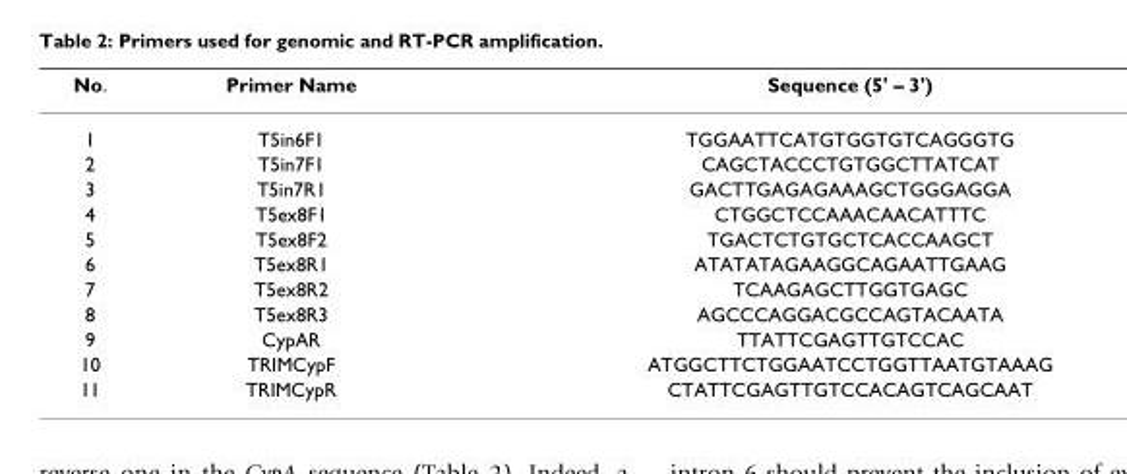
<table><thead><tr><td>No.</td><td>Primer Name</td><td>Sequence (5&#x27; – 3&#x27;)</td></tr></thead><tbody><tr><td>1</td><td>T5in6F1</td><td>TGGAATTCATGTGGTGTCAGGGTG</td></tr><tr><td>2</td><td>T5in7F1</td><td>CAGCTACCCTGTGGCTTATCAT</td></tr><tr><td>3</td><td>T5in7R1</td><td>GACTTGAGAGAAAGCTGGGAGGA</td></tr><tr><td>4</td><td>T5ex8F1</td><td>CTGGCTCCAAACAACATTTC</td></tr><tr><td>5</td><td>T5ex8F2</td><td>TGACTCTGTGCTCACCAAGCT</td></tr><tr><td>6</td><td>T5ex8R1</td><td>ATATATAGAAGGCAGAATTGAAG</td></tr><tr><td>7</td><td>T5ex8R2</td><td>TCAAGAGCTTGGTGAGC</td></tr><tr><td>8</td><td>T5ex8R3</td><td>AGCCCAGGACGCCAGTACAATA</td></tr><tr><td>9</td><td>CypAR</td><td>TTATTCGAGTTGTCCAC</td></tr><tr><td>10</td><td>TRIMCypF</td><td>ATGGCTTCTGGAATCCTGGTTAATGTAAAG</td></tr><tr><td>11</td><td>TRIMCypR</td><td>CTATTCGAGTTGTCCACAGTCAGCAAT</td></tr></tbody></table>